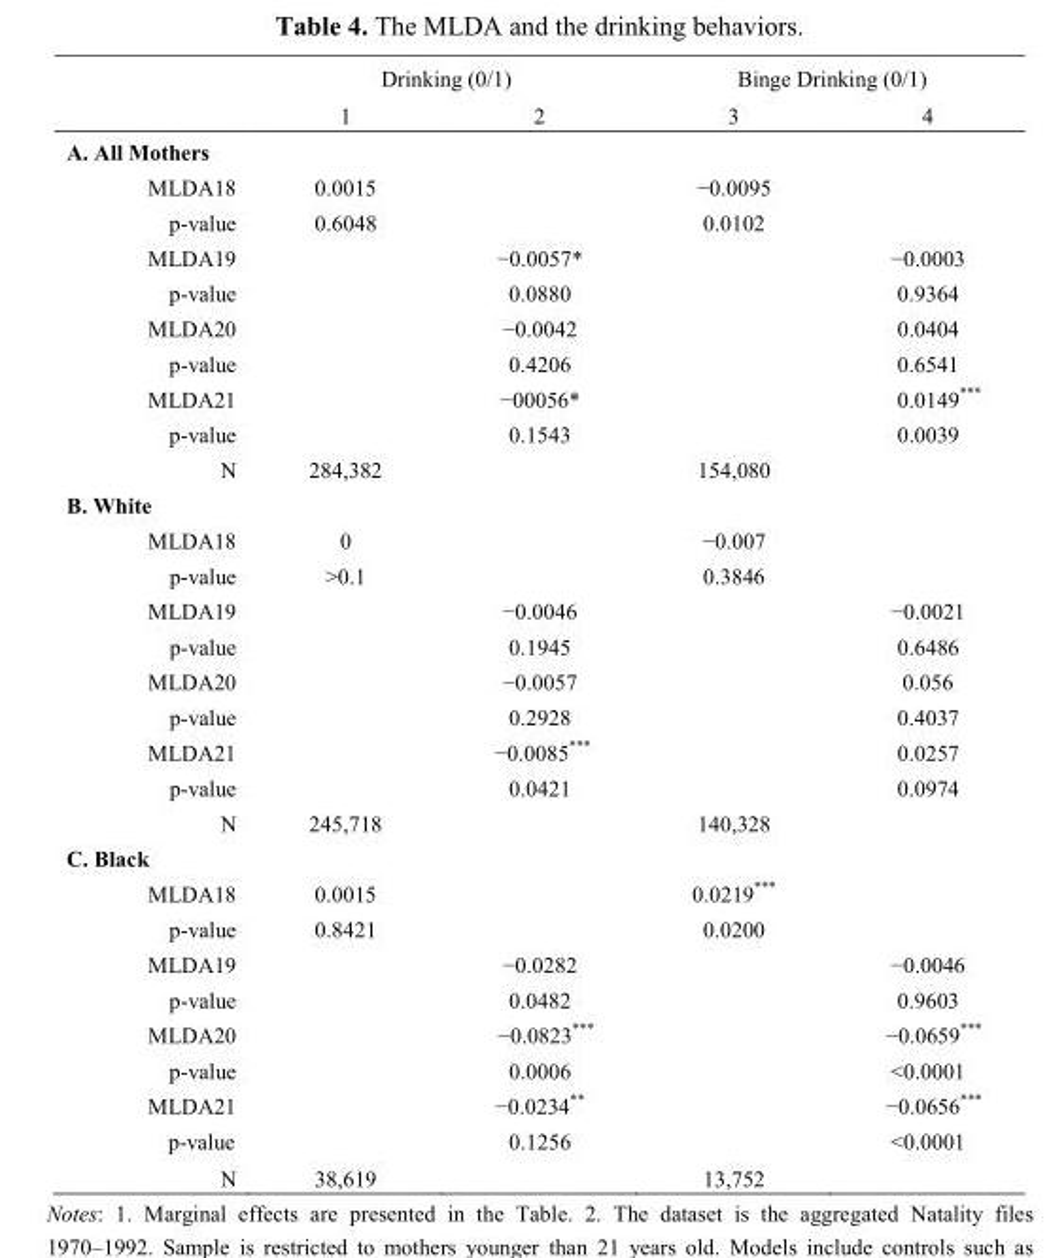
<table><thead><tr><td rowspan="2"></td><td colspan="2">Drinking (0/1)</td><td colspan="2">Binge Drinking (0/1)</td></tr><tr><td>1</td><td>2</td><td>3</td><td>4</td></tr></thead><tbody><tr><td colspan="5">A. All Mothers</td></tr><tr><td>MLDA18</td><td>0.0015</td><td></td><td>−0.0095</td><td></td></tr><tr><td>p-value</td><td>0.6048</td><td></td><td>0.0102</td><td></td></tr><tr><td>MLDA19</td><td></td><td>−0.0057*</td><td></td><td>−0.0003</td></tr><tr><td>p-value</td><td></td><td>0.0880</td><td></td><td>0.9364</td></tr><tr><td>MLDA20</td><td></td><td>−0.0042</td><td></td><td>0.0404</td></tr><tr><td>p-value</td><td></td><td>0.4206</td><td></td><td>0.6541</td></tr><tr><td>MLDA21</td><td></td><td>−00056*</td><td></td><td>0.0149***</td></tr><tr><td>p-value</td><td></td><td>0.1543</td><td></td><td>0.0039</td></tr><tr><td>N</td><td>284,382</td><td></td><td>154,080</td><td></td></tr><tr><td colspan="5">B. White</td></tr><tr><td>MLDA18</td><td>0</td><td></td><td>−0.007</td><td></td></tr><tr><td>p-value</td><td>&gt;0.1</td><td></td><td>0.3846</td><td></td></tr><tr><td>MLDA19</td><td></td><td>−0.0046</td><td></td><td>−0.0021</td></tr><tr><td>p-value</td><td></td><td>0.1945</td><td></td><td>0.6486</td></tr><tr><td>MLDA20</td><td></td><td>−0.0057</td><td></td><td>0.056</td></tr><tr><td>p-value</td><td></td><td>0.2928</td><td></td><td>0.4037</td></tr><tr><td>MLDA21</td><td></td><td>−0.0085***</td><td></td><td>0.0257</td></tr><tr><td>p-value</td><td></td><td>0.0421</td><td></td><td>0.0974</td></tr><tr><td>N</td><td>245,718</td><td></td><td>140,328</td><td></td></tr><tr><td colspan="5">C. Black</td></tr><tr><td>MLDA18</td><td>0.0015</td><td></td><td>0.0219***</td><td></td></tr><tr><td>p-value</td><td>0.8421</td><td></td><td>0.0200</td><td></td></tr><tr><td>MLDA19</td><td></td><td>−0.0282</td><td></td><td>−0.0046</td></tr><tr><td>p-value</td><td></td><td>0.0482</td><td></td><td>0.9603</td></tr><tr><td>MLDA20</td><td></td><td>−0.0823***</td><td></td><td>−0.0659***</td></tr><tr><td>p-value</td><td></td><td>0.0006</td><td></td><td>&lt;0.0001</td></tr><tr><td>MLDA21</td><td></td><td>−0.0234**</td><td></td><td>−0.0656***</td></tr><tr><td>p-value</td><td></td><td>0.1256</td><td></td><td>&lt;0.0001</td></tr><tr><td>N</td><td>38,619</td><td></td><td>13,752</td><td></td></tr></tbody></table>